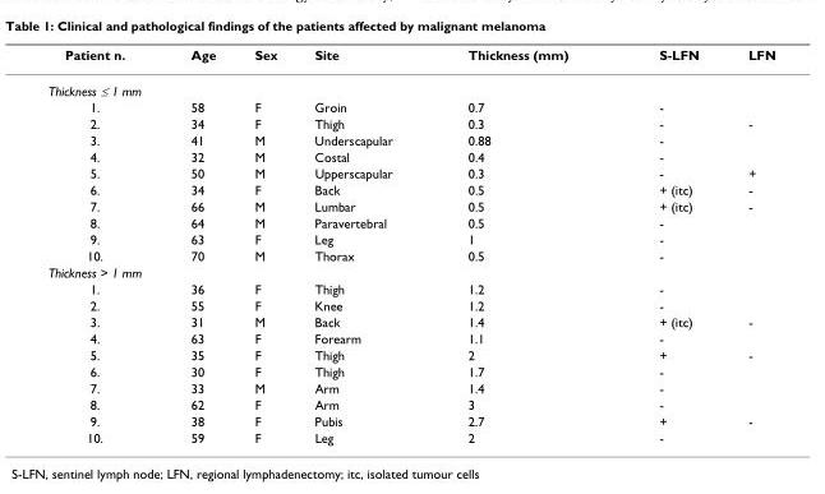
<table><thead><tr><td>Patient n.</td><td>Age</td><td>Sex</td><td>Site</td><td>Thickness (mm)</td><td>S-LFN</td><td>LFN</td></tr></thead><tbody><tr><td colspan="7">Thickness ≤ 1 mm</td></tr><tr><td>1.</td><td>58</td><td>F</td><td>Groin</td><td>0.7</td><td>-</td><td></td></tr><tr><td>2.</td><td>34</td><td>F</td><td>Thigh</td><td>0.3</td><td>-</td><td>-</td></tr><tr><td>3.</td><td>41</td><td>M</td><td>Underscapular</td><td>0.88</td><td>-</td><td></td></tr><tr><td>4.</td><td>32</td><td>M</td><td>Costal</td><td>0.4</td><td>-</td><td></td></tr><tr><td>5.</td><td>50</td><td>M</td><td>Upperscapular</td><td>0.3</td><td>-</td><td>+</td></tr><tr><td>6.</td><td>34</td><td>F</td><td>Back</td><td>0.5</td><td>+ (itc)</td><td>-</td></tr><tr><td>7.</td><td>66</td><td>M</td><td>Lumbar</td><td>0.5</td><td>+ (itc)</td><td>-</td></tr><tr><td>8.</td><td>64</td><td>M</td><td>Paravertebral</td><td>0.5</td><td>-</td><td></td></tr><tr><td>9.</td><td>63</td><td>F</td><td>Leg</td><td>1</td><td>-</td><td></td></tr><tr><td>10.</td><td>70</td><td>M</td><td>Thorax</td><td>0.5</td><td>-</td><td></td></tr><tr><td colspan="7">Thickness &gt; 1 mm</td></tr><tr><td>1.</td><td>36</td><td>F</td><td>Thigh</td><td>1.2</td><td>-</td><td></td></tr><tr><td>2.</td><td>55</td><td>F</td><td>Knee</td><td>1.2</td><td>-</td><td></td></tr><tr><td>3.</td><td>31</td><td>M</td><td>Back</td><td>1.4</td><td>+ (itc)</td><td>-</td></tr><tr><td>4.</td><td>63</td><td>F</td><td>Forearm</td><td>1.1</td><td>-</td><td></td></tr><tr><td>5.</td><td>35</td><td>F</td><td>Thigh</td><td>2</td><td>+</td><td>-</td></tr><tr><td>6.</td><td>30</td><td>F</td><td>Thigh</td><td>1.7</td><td>-</td><td></td></tr><tr><td>7.</td><td>33</td><td>M</td><td>Arm</td><td>1.4</td><td>-</td><td></td></tr><tr><td>8.</td><td>62</td><td>F</td><td>Arm</td><td>3</td><td>-</td><td></td></tr><tr><td>9.</td><td>38</td><td>F</td><td>Pubis</td><td>2.7</td><td>+</td><td>-</td></tr><tr><td>10.</td><td>59</td><td>F</td><td>Leg</td><td>2</td><td>-</td><td></td></tr></tbody></table>